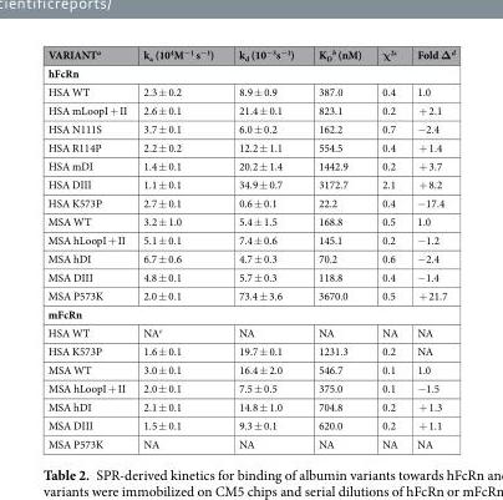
<table><thead><tr><td>VARIANT<sup>a</sup></td><td>k<sub>a</sub> (10<sup>4</sup>M<sup>−1</sup> s<sup>−1</sup>)</td><td>k<sub>d</sub> (10<sup>−3</sup>s<sup>−1</sup>)</td><td>K<sub>D</sub> <sup>b</sup> (nM)</td><td>χ<sup>2c</sup></td><td>Fold Δ<sup>d</sup></td></tr></thead><tbody><tr><td colspan="6">hFcRn</td></tr><tr><td>HSA WT</td><td>2.3 ± 0.2</td><td>8.9 ± 0.9</td><td>387.0</td><td>0.4</td><td>1.0</td></tr><tr><td>HSA mLoopI + II</td><td>2.6 ± 0.1</td><td>21.4 ± 0.1</td><td>823.1</td><td>0.2</td><td>+ 2.1</td></tr><tr><td>HSA N111S</td><td>3.7 ± 0.1</td><td>6.0 ± 0.2</td><td>162.2</td><td>0.7</td><td>−2.4</td></tr><tr><td>HSA R114P</td><td>2.2 ± 0.2</td><td>12.2 ± 1.1</td><td>554.5</td><td>0.4</td><td>+ 1.4</td></tr><tr><td>HSA mDI</td><td>1.4 ± 0.1</td><td>20.2 ± 1.4</td><td>1442.9</td><td>0.2</td><td>+ 3.7</td></tr><tr><td>HSA DIII</td><td>1.1 ± 0.1</td><td>34.9 ± 0.7</td><td>3172.7</td><td>2.1</td><td>+ 8.2</td></tr><tr><td>HSA K573P</td><td>2.7 ± 0.1</td><td>0.6 ± 0.1</td><td>22.2</td><td>0.4</td><td>−17.4</td></tr><tr><td>MSA WT</td><td>3.2 ± 1.0</td><td>5.4 ± 1.5</td><td>168.8</td><td>0.5</td><td>1.0</td></tr><tr><td>MSA hLoopI + II</td><td>5.1 ± 0.1</td><td>7.4 ± 0.6</td><td>145.1</td><td>0.2</td><td>−1.2</td></tr><tr><td>MSA hDI</td><td>6.7 ± 0.6</td><td>4.7 ± 0.3</td><td>70.2</td><td>0.6</td><td>−2.4</td></tr><tr><td>MSA DIII</td><td>4.8 ± 0.1</td><td>5.7 ± 0.3</td><td>118.8</td><td>0.4</td><td>−1.4</td></tr><tr><td>MSA P573K</td><td>2.0 ± 0.1</td><td>73.4 ± 3.6</td><td>3670.0</td><td>0.5</td><td>+ 21.7</td></tr><tr><td colspan="6">mFcRn</td></tr><tr><td>HSA WT</td><td>NA<sup>e</sup></td><td>NA</td><td>NA</td><td>NA</td><td>NA</td></tr><tr><td>HSA K573P</td><td>1.6 ± 0.1</td><td>19.7 ± 0.1</td><td>1231.3</td><td>0.2</td><td>NA</td></tr><tr><td>MSA WT</td><td>3.0 ± 0.1</td><td>16.4 ± 2.0</td><td>546.7</td><td>0.1</td><td>1.0</td></tr><tr><td>MSA hLoopI + II</td><td>2.0 ± 0.1</td><td>7.5 ± 0.5</td><td>375.0</td><td>0.1</td><td>−1.5</td></tr><tr><td>MSA hDI</td><td>2.1 ± 0.1</td><td>14.8 ± 1.0</td><td>704.8</td><td>0.2</td><td>+ 1.3</td></tr><tr><td>MSA DIII</td><td>1.5 ± 0.1</td><td>9.3 ± 0.1</td><td>620.0</td><td>0.2</td><td>+ 1.1</td></tr><tr><td>MSA P573K</td><td>NA</td><td>NA</td><td>NA</td><td>NA</td><td>NA</td></tr></tbody></table>